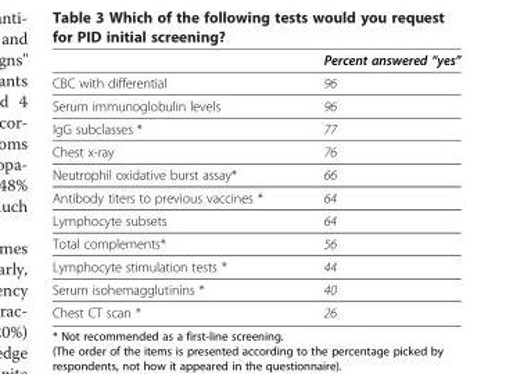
<table><thead><tr><td></td><td>Percent answered “yes”</td></tr></thead><tbody><tr><td>CBC with differential</td><td>96</td></tr><tr><td>Serum immunoglobulin levels</td><td>96</td></tr><tr><td>IgG subclasses *</td><td>77</td></tr><tr><td>Chest x-ray</td><td>76</td></tr><tr><td>Neutrophil oxidative burst assay*</td><td>66</td></tr><tr><td>Antibody titers to previous vaccines *</td><td>64</td></tr><tr><td>Lymphocyte subsets</td><td>64</td></tr><tr><td>Total complements*</td><td>56</td></tr><tr><td>Lymphocyte stimulation tests *</td><td>44</td></tr><tr><td>Serum isohemagglutinins *</td><td>40</td></tr><tr><td>Chest CT scan *</td><td>26</td></tr></tbody></table>